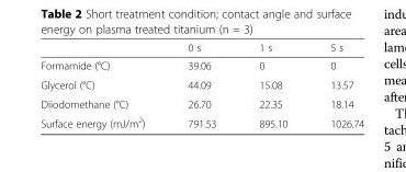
<table><thead><tr><td></td><td>0 s</td><td>1 s</td><td>5 s</td></tr></thead><tbody><tr><td>Formamide (°C)</td><td>39.06</td><td>0</td><td>0</td></tr><tr><td>Glycerol (°C)</td><td>44.09</td><td>15.08</td><td>13.57</td></tr><tr><td>Diiodomethane (°C)</td><td>26.70</td><td>22.35</td><td>18.14</td></tr><tr><td>Surface energy (mJ/m<sup>2</sup>)</td><td>791.53</td><td>895.10</td><td>1026.74</td></tr></tbody></table>